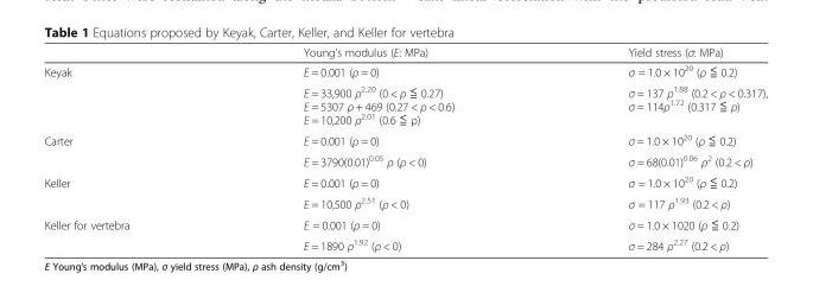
<table><thead><tr><td></td><td>Young’s modulus (E: MPa)</td><td>Yield stress (σ: MPa)</td></tr></thead><tbody><tr><td rowspan="2">Keyak</td><td>E = 0.001 (ρ = 0)</td><td>σ = 1.0 × 10<sup>20</sup> (ρ ≦ 0.2)</td></tr><tr><td>E = 33,900 ρ<sup>2.20</sup> (0 &lt; ρ ≦ 0.27) E = 5307 ρ + 469 (0.27 &lt; ρ &lt; 0.6) E = 10,200 ρ<sup>2.01</sup> (0.6 ≦ ρ)</td><td>σ = 137 ρ<sup>1.88</sup> (0.2 &lt; ρ &lt; 0.317), σ = 114ρ<sup>1.72</sup> (0.317 ≦ ρ)</td></tr><tr><td rowspan="2">Carter</td><td>E = 0.001 (ρ = 0)</td><td>σ = 1.0 × 10<sup>20</sup> (ρ ≦ 0.2)</td></tr><tr><td>E = 3790(0.01)<sup>0.05</sup> ρ (ρ &lt; 0)</td><td>σ = 68(0.01)<sup>0.06</sup> ρ<sup>2</sup> (0.2 &lt; ρ)</td></tr><tr><td rowspan="2">Keller</td><td>E = 0.001 (ρ = 0)</td><td>σ = 1.0 × 10<sup>20</sup> (ρ ≦ 0.2)</td></tr><tr><td>E = 10,500 ρ<sup>2.51</sup> (ρ &lt; 0)</td><td>σ = 117 ρ<sup>1.93</sup> (0.2 &lt; ρ)</td></tr><tr><td rowspan="2">Keller for vertebra</td><td>E = 0.001 (ρ = 0)</td><td>σ = 1.0 × 1020 (ρ ≦ 0.2)</td></tr><tr><td>E = 1890 ρ<sup>1.92</sup> (ρ &lt; 0)</td><td>σ = 284 ρ<sup>2.27</sup> (0.2 &lt; ρ)</td></tr></tbody></table>